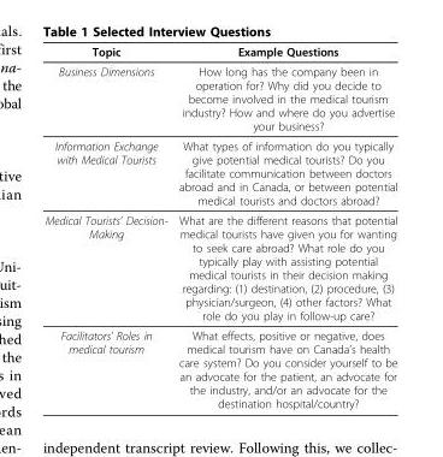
<table><thead><tr><td>Topic</td><td>Example Questions</td></tr></thead><tbody><tr><td>Business Dimensions</td><td>How long has the company been in operation for? Why did you decide to become involved in the medical tourism industry? How and where do you advertise your business?</td></tr><tr><td>Information Exchange with Medical Tourists</td><td>What types of information do you typically give potential medical tourists? Do you facilitate communication between doctors abroad and in Canada, or between potential medical tourists and doctors abroad?</td></tr><tr><td>Medical Tourists’ Decision- Making</td><td>What are the different reasons that potential medical tourists have given you for wanting to seek care abroad? What role do you typically play with assisting potential medical tourists in their decision making regarding: (1) destination, (2) procedure, (3) physician/surgeon, (4) other factors? What role do you play in follow-up care?</td></tr><tr><td>Facilitators’ Roles in medical tourism</td><td>What effects, positive or negative, does medical tourism have on Canada’s health care system? Do you consider yourself to be an advocate for the patient, an advocate for the industry, and/or an advocate for the destination hospital/country?</td></tr></tbody></table>